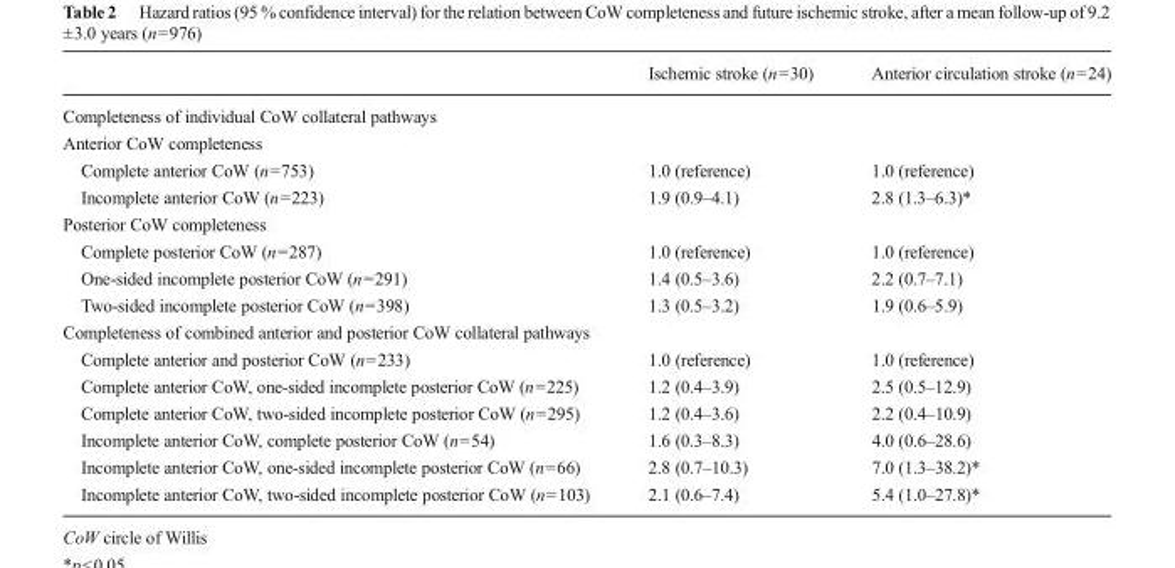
<table><thead><tr><td></td><td>Ischemic stroke (n=30)</td><td>Anterior circulation stroke (n=24)</td></tr></thead><tbody><tr><td colspan="3">Completeness of individual CoW collateral pathways</td></tr><tr><td colspan="3">Anterior CoW completeness</td></tr><tr><td>Complete anterior CoW (n=753)</td><td>1.0 (reference)</td><td>1.0 (reference)</td></tr><tr><td>Incomplete anterior CoW (n=223)</td><td>1.9 (0.9–4.1)</td><td>2.8 (1.3–6.3)*</td></tr><tr><td colspan="3">Posterior CoW completeness</td></tr><tr><td>Complete posterior CoW (n=287)</td><td>1.0 (reference)</td><td>1.0 (reference)</td></tr><tr><td>One-sided incomplete posterior CoW (n=291)</td><td>1.4 (0.5–3.6)</td><td>2.2 (0.7–7.1)</td></tr><tr><td>Two-sided incomplete posterior CoW (n=398)</td><td>1.3 (0.5–3.2)</td><td>1.9 (0.6–5.9)</td></tr><tr><td colspan="3">Completeness of combined anterior and posterior CoW collateral pathways</td></tr><tr><td>Complete anterior and posterior CoW (n=233)</td><td>1.0 (reference)</td><td>1.0 (reference)</td></tr><tr><td>Complete anterior CoW, one-sided incomplete posterior CoW (n=225)</td><td>1.2 (0.4–3.9)</td><td>2.5 (0.5–12.9)</td></tr><tr><td>Complete anterior CoW, two-sided incomplete posterior CoW (n=295)</td><td>1.2 (0.4–3.6)</td><td>2.2 (0.4–10.9)</td></tr><tr><td>Incomplete anterior CoW, complete posterior CoW (n=54)</td><td>1.6 (0.3–8.3)</td><td>4.0 (0.6–28.6)</td></tr><tr><td>Incomplete anterior CoW, one-sided incomplete posterior CoW (n=66)</td><td>2.8 (0.7–10.3)</td><td>7.0 (1.3–38.2)*</td></tr><tr><td>Incomplete anterior CoW, two-sided incomplete posterior CoW (n=103)</td><td>2.1 (0.6–7.4)</td><td>5.4 (1.0–27.8)*</td></tr></tbody></table>